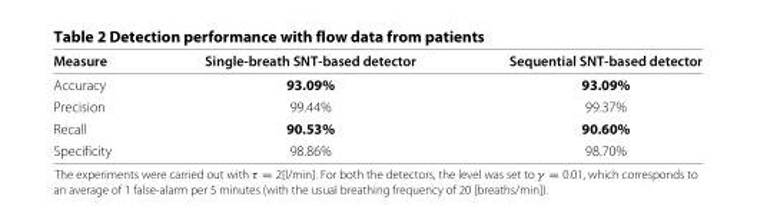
<table><thead><tr><td>Measure</td><td>Single-breath SNT-based detector</td><td>Sequential SNT-based detector</td></tr></thead><tbody><tr><td>Accuracy</td><td>93.09%</td><td>93.09%</td></tr><tr><td>Precision</td><td>99.44%</td><td>99.37%</td></tr><tr><td>Recall</td><td>90.53%</td><td>90.60%</td></tr><tr><td>Specificity</td><td>98.86%</td><td>98.70%</td></tr></tbody></table>